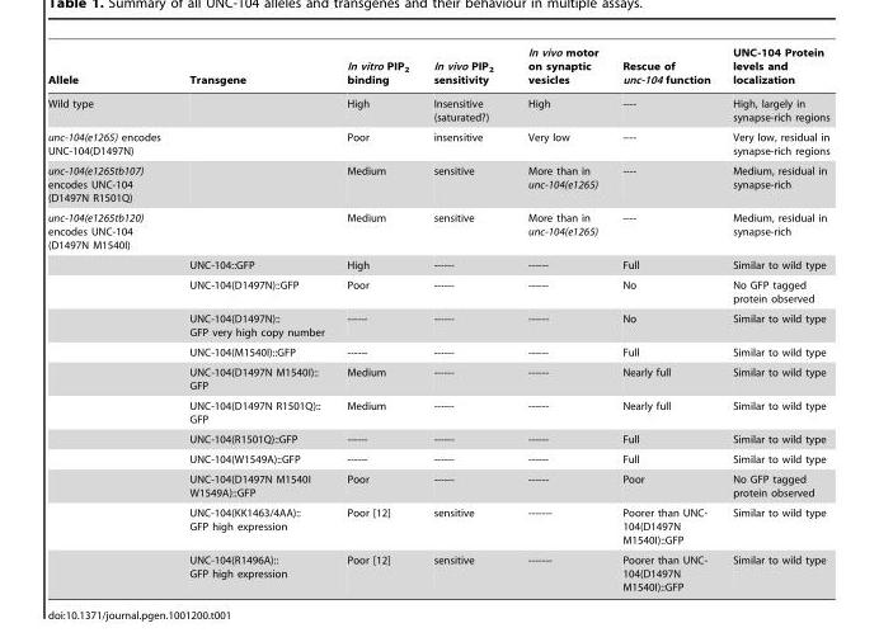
<table><thead><tr><td>Allele</td><td>Transgene</td><td>In vitro PIP<sub>2</sub> binding</td><td>In vivo PIP<sub>2</sub> sensitivity</td><td>In vivo motor on synaptic vesicles</td><td>Rescue of unc-104 function</td><td>UNC-104 Protein levels and localization</td></tr></thead><tbody><tr><td>Wild type</td><td></td><td>High</td><td>Insensitive (saturated?)</td><td>High</td><td>----</td><td>High, largely in synapse-rich regions</td></tr><tr><td>unc-104(e1265) encodes UNC-104(D1497N)</td><td></td><td>Poor</td><td>insensitive</td><td>Very low</td><td>----</td><td>Very low, residual in synapse-rich regions</td></tr><tr><td>unc-104(e1265tb107) encodes UNC-104 (D1497N R1501Q)</td><td></td><td>Medium</td><td>sensitive</td><td>More than in unc-104(e1265)</td><td>----</td><td>Medium, residual in synapse-rich</td></tr><tr><td rowspan="12">unc-104(e1265tb120) encodes UNC-104 (D1497N M1540I)</td><td></td><td>Medium</td><td>sensitive</td><td>More than in unc-104(e1265)</td><td>----</td><td>Medium, residual in synapse-rich</td></tr><tr><td>UNC-104::GFP</td><td>High</td><td>------</td><td>------</td><td>Full</td><td>Similar to wild type</td></tr><tr><td>UNC-104(D1497N)::GFP</td><td>Poor</td><td>------</td><td>------</td><td>No</td><td>No GFP tagged protein observed</td></tr><tr><td>UNC-104(D1497N):: GFP very high copy number</td><td>------</td><td>------</td><td>------</td><td>No</td><td>Similar to wild type</td></tr><tr><td>UNC-104(M1540I)::GFP</td><td>------</td><td>------</td><td>------</td><td>Full</td><td>Similar to wild type</td></tr><tr><td>UNC-104(D1497N M1540I):: GFP</td><td>Medium</td><td>------</td><td>------</td><td>Nearly full</td><td>Similar to wild type</td></tr><tr><td>UNC-104(D1497N R1501Q):: GFP</td><td>Medium</td><td>------</td><td>------</td><td>Nearly full</td><td>Similar to wild type</td></tr><tr><td>UNC-104(R1501Q)::GFP</td><td>------</td><td>------</td><td>------</td><td>Full</td><td>Similar to wild type</td></tr><tr><td>UNC-104(W1549A)::GFP</td><td>------</td><td>------</td><td>------</td><td>Full</td><td>Similar to wild type</td></tr><tr><td>UNC-104(D1497N M1540I W1549A)::GFP</td><td>Poor</td><td>------</td><td>------</td><td>Poor</td><td>No GFP tagged protein observed</td></tr><tr><td>UNC-104(KK1463/4AA):: GFP high expression</td><td>Poor [12]</td><td>sensitive</td><td>-------</td><td>Poorer than UNC- 104(D1497N M1540I)::GFP</td><td>Similar to wild type</td></tr><tr><td>UNC-104(R1496A):: GFP high expression</td><td>Poor [12]</td><td>sensitive</td><td>-------</td><td>Poorer than UNC- 104(D1497N M1540I)::GFP</td><td>Similar to wild type</td></tr></tbody></table>